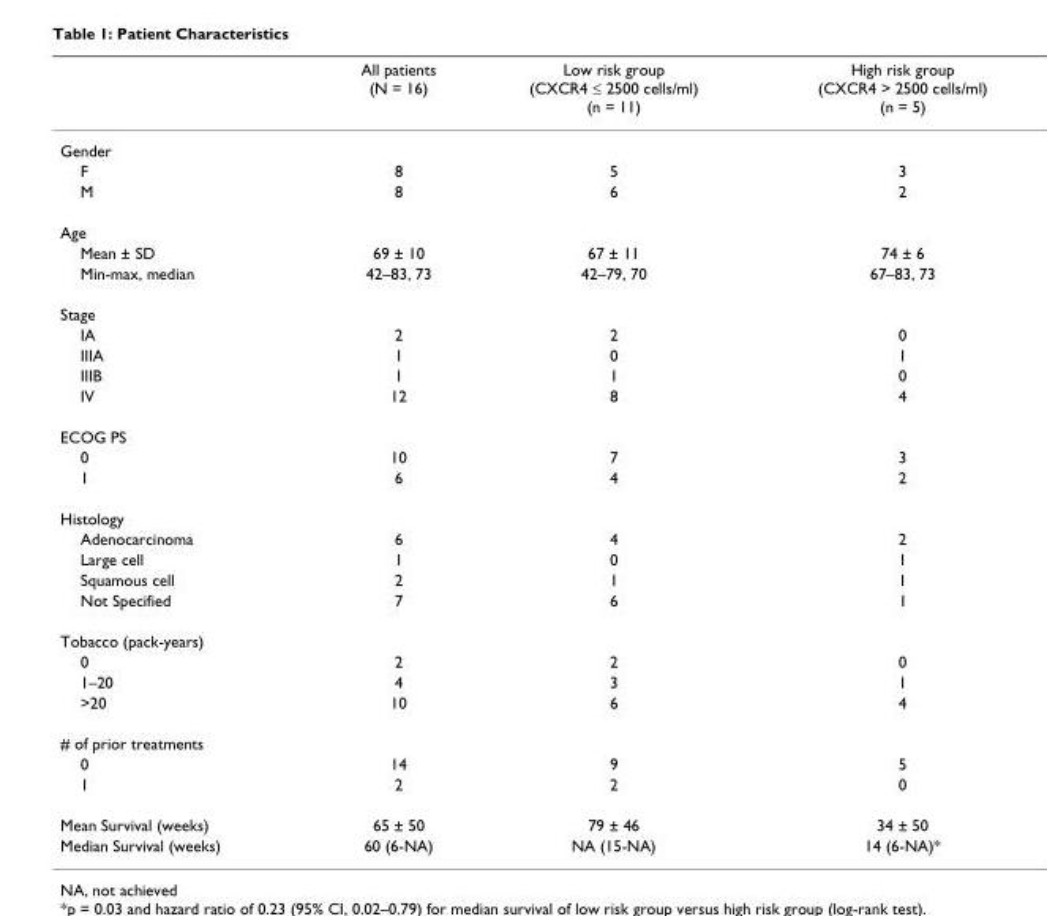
<table><thead><tr><td></td><td>All patients (N = 16)</td><td>Low risk group (CXCR4 ≤ 2500 cells/ml) (n = 11)</td><td>High risk group (CXCR4 &gt; 2500 cells/ml) (n = 5)</td></tr></thead><tbody><tr><td colspan="4">Gender</td></tr><tr><td>F</td><td>8</td><td>5</td><td>3</td></tr><tr><td>M</td><td>8</td><td>6</td><td>2</td></tr><tr><td colspan="4">Age</td></tr><tr><td>Mean ± SD</td><td>69 ± 10</td><td>67 ± 11</td><td>74 ± 6</td></tr><tr><td>Min-max, median</td><td>42–83, 73</td><td>42–79, 70</td><td>67–83, 73</td></tr><tr><td colspan="4">Stage</td></tr><tr><td>IA</td><td>2</td><td>2</td><td>0</td></tr><tr><td>IIIA</td><td>1</td><td>0</td><td>1</td></tr><tr><td>IIIB</td><td>1</td><td>1</td><td>0</td></tr><tr><td>IV</td><td>12</td><td>8</td><td>4</td></tr><tr><td colspan="4">ECOG PS</td></tr><tr><td>0</td><td>10</td><td>7</td><td>3</td></tr><tr><td>1</td><td>6</td><td>4</td><td>2</td></tr><tr><td colspan="4">Histology</td></tr><tr><td>Adenocarcinoma</td><td>6</td><td>4</td><td>2</td></tr><tr><td>Large cell</td><td>1</td><td>0</td><td>1</td></tr><tr><td>Squamous cell</td><td>2</td><td>1</td><td>1</td></tr><tr><td>Not Specified</td><td>7</td><td>6</td><td>1</td></tr><tr><td colspan="4">Tobacco (pack-years)</td></tr><tr><td>0</td><td>2</td><td>2</td><td>0</td></tr><tr><td>1–20</td><td>4</td><td>3</td><td>1</td></tr><tr><td>&gt;20</td><td>10</td><td>6</td><td>4</td></tr><tr><td colspan="4"># of prior treatments</td></tr><tr><td>0</td><td>14</td><td>9</td><td>5</td></tr><tr><td>1</td><td>2</td><td>2</td><td>0</td></tr><tr><td>Mean Survival (weeks)</td><td>65 ± 50</td><td>79 ± 46</td><td>34 ± 50</td></tr><tr><td>Median Survival (weeks)</td><td>60 (6-NA)</td><td>NA (15-NA)</td><td>14 (6-NA)*</td></tr></tbody></table>